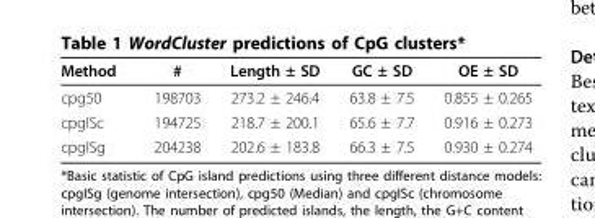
<table><thead><tr><td>Method</td><td>#</td><td>Length ± SD</td><td>GC ± SD</td><td>OE ± SD</td></tr></thead><tbody><tr><td>cpg50</td><td>198703</td><td>273.2 ± 246.4</td><td>63.8 ± 7.5</td><td>0.855 ± 0.265</td></tr><tr><td>cpgISc</td><td>194725</td><td>218.7 ± 200.1</td><td>65.6 ± 7.7</td><td>0.916 ± 0.273</td></tr><tr><td>cpgISg</td><td>204238</td><td>202.6 ± 183.8</td><td>66.3 ± 7.5</td><td>0.930 ± 0.274</td></tr></tbody></table>